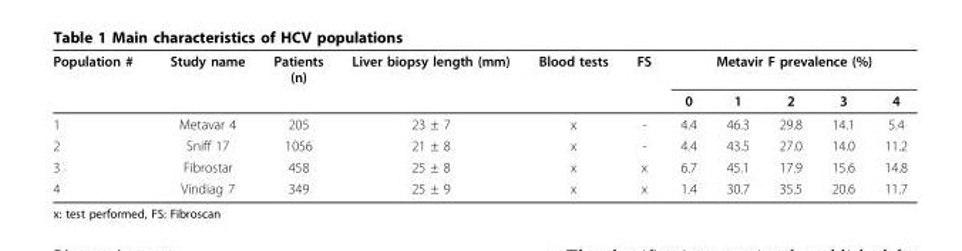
<table><thead><tr><td rowspan="2">Population #</td><td rowspan="2">Study name</td><td rowspan="2">Patients (n)</td><td rowspan="2">Liver biopsy length (mm)</td><td rowspan="2">Blood tests</td><td rowspan="2">FS</td><td colspan="5">Metavir F prevalence (%)</td></tr><tr><td>0</td><td>1</td><td>2</td><td>3</td><td>4</td></tr></thead><tbody><tr><td>1</td><td>Metavar 4</td><td>205</td><td>23 ± 7</td><td>x</td><td>-</td><td>4.4</td><td>46.3</td><td>29.8</td><td>14.1</td><td>5.4</td></tr><tr><td>2</td><td>Sniff 17</td><td>1056</td><td>21 ± 8</td><td>x</td><td>-</td><td>4.4</td><td>43.5</td><td>27.0</td><td>14.0</td><td>11.2</td></tr><tr><td>3</td><td>Fibrostar</td><td>458</td><td>25 ± 8</td><td>x</td><td>x</td><td>6.7</td><td>45.1</td><td>17.9</td><td>15.6</td><td>14.8</td></tr><tr><td>4</td><td>Vindiag 7</td><td>349</td><td>25 ± 9</td><td>x</td><td>x</td><td>1.4</td><td>30.7</td><td>35.5</td><td>20.6</td><td>11.7</td></tr></tbody></table>